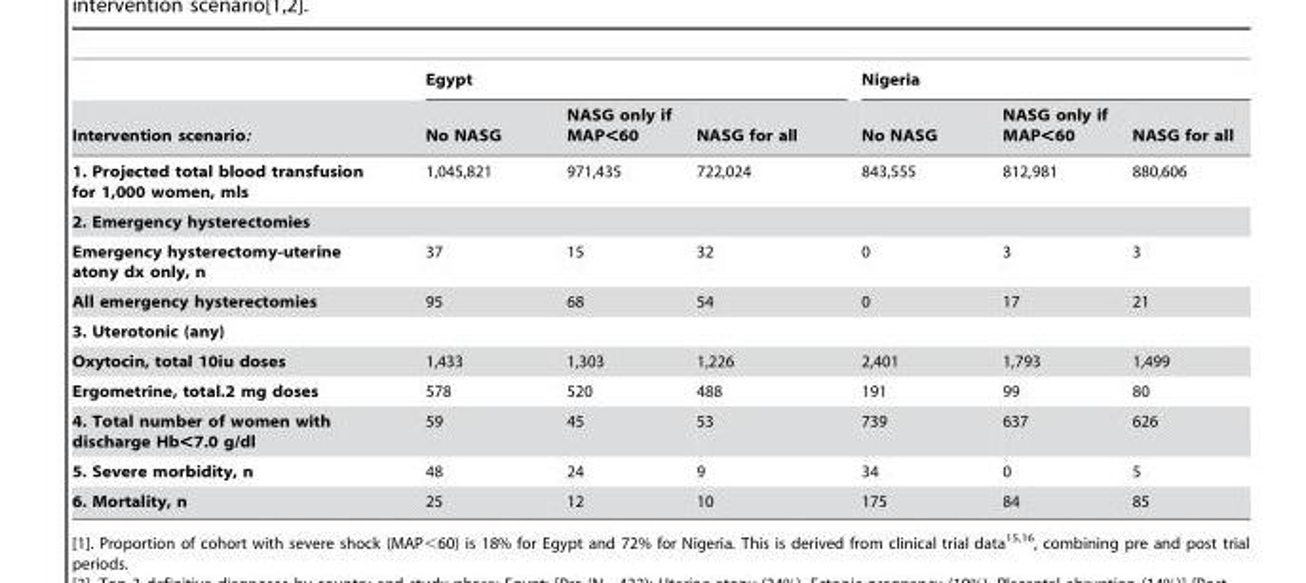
<table><thead><tr><td rowspan="2">Intervention scenario:</td><td colspan="3">Egypt</td><td colspan="3">Nigeria</td></tr><tr><td>No NASG</td><td>NASG only if MAP&lt;60</td><td>NASG for all</td><td>No NASG</td><td>NASG only if MAP&lt;60</td><td>NASG for all</td></tr></thead><tbody><tr><td>1. Projected total blood transfusion for 1,000 women, mls</td><td>1,045,821</td><td>971,435</td><td>722,024</td><td>843,555</td><td>812,981</td><td>880,606</td></tr><tr><td colspan="7">2. Emergency hysterectomies</td></tr><tr><td>Emergency hysterectomy-uterine atony dx only, n</td><td>37</td><td>15</td><td>32</td><td>0</td><td>3</td><td>3</td></tr><tr><td>All emergency hysterectomies</td><td>95</td><td>68</td><td>54</td><td>0</td><td>17</td><td>21</td></tr><tr><td colspan="7">3. Uterotonic (any)</td></tr><tr><td>Oxytocin, total 10iu doses</td><td>1,433</td><td>1,303</td><td>1,226</td><td>2,401</td><td>1,793</td><td>1,499</td></tr><tr><td>Ergometrine, total.2 mg doses</td><td>578</td><td>520</td><td>488</td><td>191</td><td>99</td><td>80</td></tr><tr><td>4. Total number of women with discharge Hb&lt;7.0 g/dl</td><td>59</td><td>45</td><td>53</td><td>739</td><td>637</td><td>626</td></tr><tr><td>5. Severe morbidity, n</td><td>48</td><td>24</td><td>9</td><td>34</td><td>0</td><td>5</td></tr><tr><td>6. Mortality, n</td><td>25</td><td>12</td><td>10</td><td>175</td><td>84</td><td>85</td></tr></tbody></table>